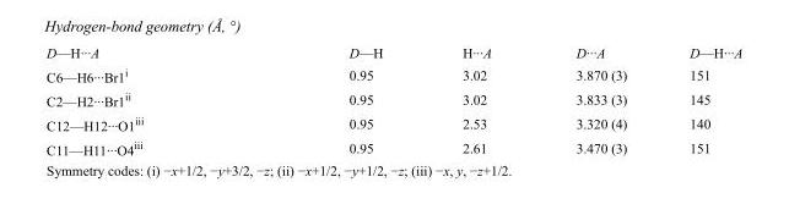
<table><tbody><tr><td>D—H···A</td><td>D—H</td><td>H···A</td><td>D···A</td><td>D—H···A</td></tr><tr><td>C6—H6···Br1<sup>i</sup></td><td>0.95</td><td>3.02</td><td>3.870 (3)</td><td>151</td></tr><tr><td>C2—H2···Br1<sup>ii</sup></td><td>0.95</td><td>3.02</td><td>3.833 (3)</td><td>145</td></tr><tr><td>C12—H12···O1<sup>iii</sup></td><td>0.95</td><td>2.53</td><td>3.320 (4)</td><td>140</td></tr><tr><td>C11—H11···O4<sup>iii</sup></td><td>0.95</td><td>2.61</td><td>3.470 (3)</td><td>151</td></tr></tbody></table>